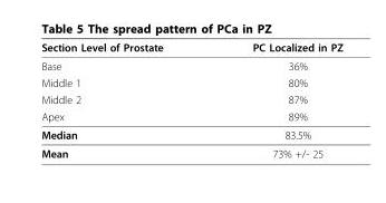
<table><thead><tr><td>Section Level of Prostate</td><td>PC Localized in PZ</td></tr></thead><tbody><tr><td>Base</td><td>36%</td></tr><tr><td>Middle 1</td><td>80%</td></tr><tr><td>Middle 2</td><td>87%</td></tr><tr><td>Apex</td><td>89%</td></tr><tr><td>Median</td><td>83.5%</td></tr><tr><td>Mean</td><td>73% +/- 25</td></tr></tbody></table>